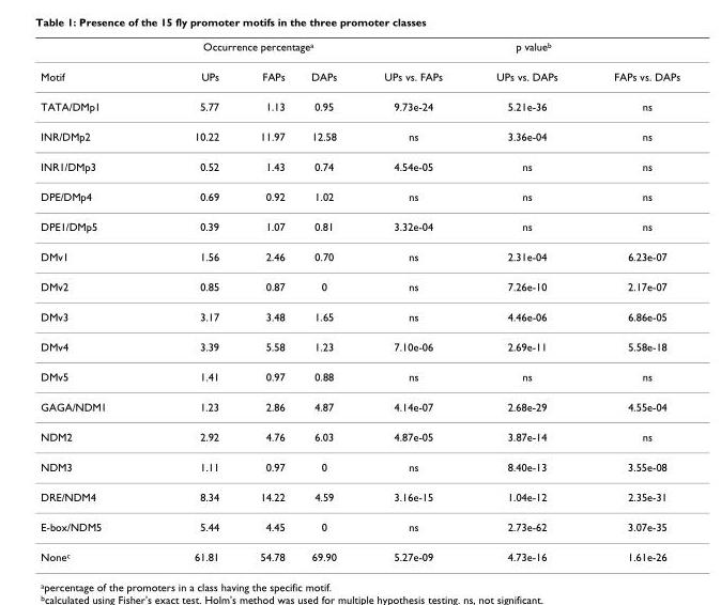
<table><thead><tr><td rowspan="2">Motif</td><td colspan="3">Occurrence percentage<sup>a</sup></td><td colspan="3">p value<sup>b</sup></td></tr><tr><td>UPs</td><td>FAPs</td><td>DAPs</td><td>UPs vs. FAPs</td><td>UPs vs. DAPs</td><td>FAPs vs. DAPs</td></tr></thead><tbody><tr><td>TATA/DMp1</td><td>5.77</td><td>1.13</td><td>0.95</td><td>9.73e-24</td><td>5.21e-36</td><td>ns</td></tr><tr><td>INR/DMp2</td><td>10.22</td><td>11.97</td><td>12.58</td><td>ns</td><td>3.36e-04</td><td>ns</td></tr><tr><td>INR1/DMp3</td><td>0.52</td><td>1.43</td><td>0.74</td><td>4.54e-05</td><td>ns</td><td>ns</td></tr><tr><td>DPE/DMp4</td><td>0.69</td><td>0.92</td><td>1.02</td><td>ns</td><td>ns</td><td>ns</td></tr><tr><td>DPE1/DMp5</td><td>0.39</td><td>1.07</td><td>0.81</td><td>3.32e-04</td><td>ns</td><td>ns</td></tr><tr><td>DMv1</td><td>1.56</td><td>2.46</td><td>0.70</td><td>ns</td><td>2.31e-04</td><td>6.23e-07</td></tr><tr><td>DMv2</td><td>0.85</td><td>0.87</td><td>0</td><td>ns</td><td>7.26e-10</td><td>2.17e-07</td></tr><tr><td>DMv3</td><td>3.17</td><td>3.48</td><td>1.65</td><td>ns</td><td>4.46e-06</td><td>6.86e-05</td></tr><tr><td>DMv4</td><td>3.39</td><td>5.58</td><td>1.23</td><td>7.10e-06</td><td>2.69e-11</td><td>5.58e-18</td></tr><tr><td>DMv5</td><td>1.41</td><td>0.97</td><td>0.88</td><td>ns</td><td>ns</td><td>ns</td></tr><tr><td>GAGA/NDM1</td><td>1.23</td><td>2.86</td><td>4.87</td><td>4.14e-07</td><td>2.68e-29</td><td>4.55e-04</td></tr><tr><td>NDM2</td><td>2.92</td><td>4.76</td><td>6.03</td><td>4.87e-05</td><td>3.87e-14</td><td>ns</td></tr><tr><td>NDM3</td><td>1.11</td><td>0.97</td><td>0</td><td>ns</td><td>8.40e-13</td><td>3.55e-08</td></tr><tr><td>DRE/NDM4</td><td>8.34</td><td>14.22</td><td>4.59</td><td>3.16e-15</td><td>1.04e-12</td><td>2.35e-31</td></tr><tr><td>E-box/NDM5</td><td>5.44</td><td>4.45</td><td>0</td><td>ns</td><td>2.73e-62</td><td>3.07e-35</td></tr><tr><td>None<sup>c</sup></td><td>61.81</td><td>54.78</td><td>69.90</td><td>5.27e-09</td><td>4.73e-16</td><td>1.61e-26</td></tr></tbody></table>